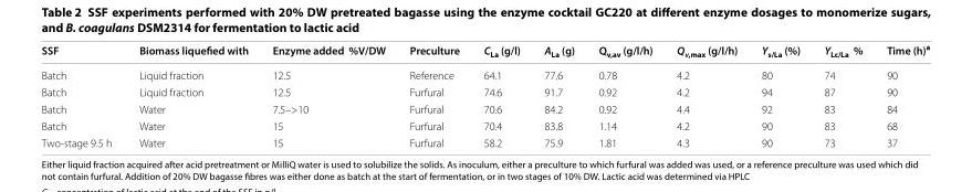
<table><thead><tr><td>SSF</td><td>Biomass liquefied with</td><td>Enzyme added %V/DW</td><td>Preculture</td><td>C<sub>La</sub> (g/l)</td><td>A<sub>La</sub> (g)</td><td>Q<sub>v,av</sub> (g/l/h)</td><td>Q<sub>v,max</sub> (g/l/h)</td><td>Y<sub>s/La</sub> (%)</td><td>Y<sub>Lc/La</sub> %</td><td>Time (h)<sup>a</sup></td></tr></thead><tbody><tr><td>Batch</td><td>Liquid fraction</td><td>12.5</td><td>Reference</td><td>64.1</td><td>77.6</td><td>0.78</td><td>4.2</td><td>80</td><td>74</td><td>90</td></tr><tr><td>Batch</td><td>Liquid fraction</td><td>12.5</td><td>Furfural</td><td>74.6</td><td>91.7</td><td>0.92</td><td>4.2</td><td>94</td><td>87</td><td>90</td></tr><tr><td>Batch</td><td>Water</td><td>7.5–&gt;10</td><td>Furfural</td><td>70.6</td><td>84.2</td><td>0.92</td><td>4.4</td><td>92</td><td>83</td><td>84</td></tr><tr><td>Batch</td><td>Water</td><td>15</td><td>Furfural</td><td>70.4</td><td>83.8</td><td>1.14</td><td>4.2</td><td>90</td><td>83</td><td>68</td></tr><tr><td>Two-stage 9.5 h</td><td>Water</td><td>15</td><td>Furfural</td><td>58.2</td><td>75.9</td><td>1.81</td><td>4.3</td><td>90</td><td>73</td><td>37</td></tr></tbody></table>